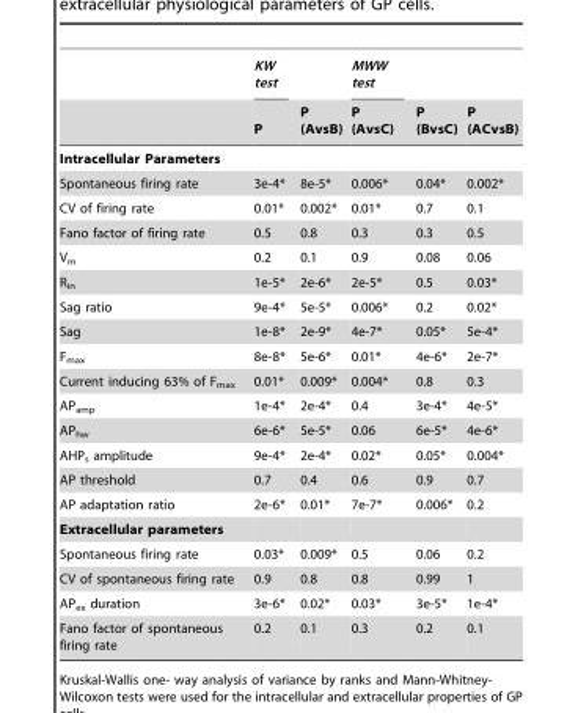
<table><thead><tr><td rowspan="2"></td><td rowspan="2">KW test P</td><td rowspan="2">P (AvsB)</td><td rowspan="2">MWW test P (AvsC)</td><td rowspan="2">P (BvsC)</td><td rowspan="2">P (ACvsB)</td></tr><tr></tr></thead><tbody><tr><td colspan="6">Intracellular Parameters</td></tr><tr><td>Spontaneous firing rate</td><td>3e-4*</td><td>8e-5*</td><td>0.006*</td><td>0.04*</td><td>0.002*</td></tr><tr><td>CV of firing rate</td><td>0.01*</td><td>0.002*</td><td>0.01*</td><td>0.7</td><td>0.1</td></tr><tr><td>Fano factor of firing rate</td><td>0.5</td><td>0.8</td><td>0.3</td><td>0.3</td><td>0.5</td></tr><tr><td>V<sub>m</sub></td><td>0.2</td><td>0.1</td><td>0.9</td><td>0.08</td><td>0.06</td></tr><tr><td>R<sub>in</sub></td><td>1e-5*</td><td>2e-6*</td><td>2e-5*</td><td>0.5</td><td>0.03*</td></tr><tr><td>Sag ratio</td><td>9e-4*</td><td>5e-5*</td><td>0.006*</td><td>0.2</td><td>0.02*</td></tr><tr><td>Sag</td><td>1e-8*</td><td>2e-9*</td><td>4e-7*</td><td>0.05*</td><td>5e-4*</td></tr><tr><td>F<sub>max</sub></td><td>8e-8*</td><td>5e-6*</td><td>0.01*</td><td>4e-6*</td><td>2e-7*</td></tr><tr><td>Current inducing 63% of F<sub>max</sub></td><td>0.01*</td><td>0.009*</td><td>0.004*</td><td>0.8</td><td>0.3</td></tr><tr><td>AP<sub>amp</sub></td><td>1e-4*</td><td>2e-4*</td><td>0.4</td><td>3e-4*</td><td>4e-5*</td></tr><tr><td>AP<sub>hw</sub></td><td>6e-6*</td><td>5e-5*</td><td>0.06</td><td>6e-5*</td><td>4e-6*</td></tr><tr><td>AHP<sub>s</sub> amplitude</td><td>9e-4*</td><td>2e-4*</td><td>0.02*</td><td>0.05*</td><td>0.004*</td></tr><tr><td>AP threshold</td><td>0.7</td><td>0.4</td><td>0.6</td><td>0.9</td><td>0.7</td></tr><tr><td>AP adaptation ratio</td><td>2e-6*</td><td>0.01*</td><td>7e-7*</td><td>0.006*</td><td>0.2</td></tr><tr><td colspan="6">Extracellular parameters</td></tr><tr><td>Spontaneous firing rate</td><td>0.03*</td><td>0.009*</td><td>0.5</td><td>0.06</td><td>0.2</td></tr><tr><td>CV of spontaneous firing rate</td><td>0.9</td><td>0.8</td><td>0.8</td><td>0.99</td><td>1</td></tr><tr><td>AP<sub>ex</sub> duration</td><td>3e-6*</td><td>0.02*</td><td>0.03*</td><td>3e-5*</td><td>1e-4*</td></tr><tr><td>Fano factor of spontaneous firing rate</td><td>0.2</td><td>0.1</td><td>0.3</td><td>0.2</td><td>0.1</td></tr></tbody></table>